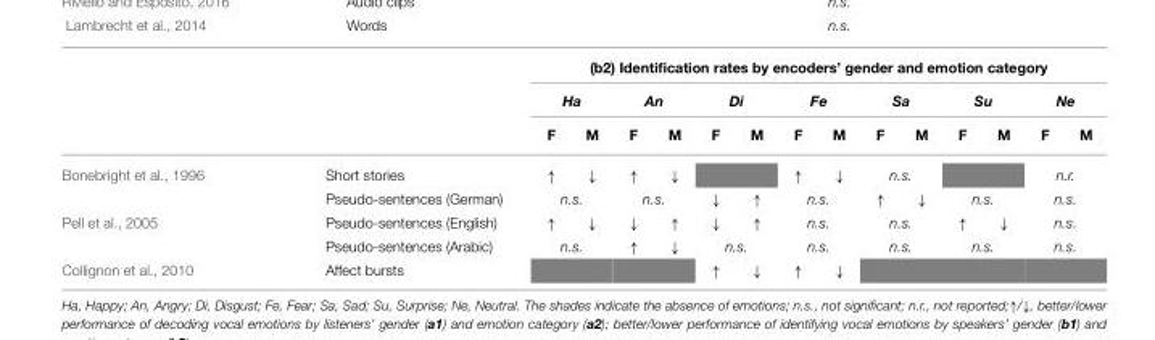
<table><thead><tr><td rowspan="3"></td><td rowspan="3"></td><td colspan="14">(b2) Identification rates by encoders’ gender and emotion category</td></tr><tr><td colspan="2">Ha</td><td colspan="2">An</td><td colspan="2">Di</td><td colspan="2">Fe</td><td colspan="2">Sa</td><td colspan="2">Su</td><td colspan="2">Ne</td></tr><tr><td>F</td><td>M</td><td>F</td><td>M</td><td>F</td><td>M</td><td>F</td><td>M</td><td>F</td><td>M</td><td>F</td><td>M</td><td>F</td><td>M</td></tr></thead><tbody><tr><td rowspan="2">Bonebright et al., 1996</td><td>Short stories</td><td>↑</td><td>↓</td><td>↑</td><td>↓</td><td colspan="2"></td><td>↑</td><td>↓</td><td colspan="2">n.s.</td><td colspan="2"></td><td colspan="2">n.r.</td></tr><tr><td>Pseudo-sentences (German)</td><td colspan="2">n.s.</td><td colspan="2">n.s.</td><td>↓</td><td>↑</td><td colspan="2">n.s.</td><td>↑</td><td>↓</td><td colspan="2">n.s.</td><td colspan="2">n.s.</td></tr><tr><td rowspan="2">Pell et al., 2005</td><td>Pseudo-sentences (English)</td><td>↑</td><td>↓</td><td>↓</td><td>↑</td><td>↓</td><td>↑</td><td colspan="2">n.s.</td><td colspan="2">n.s.</td><td>↑</td><td>↓</td><td colspan="2">n.s.</td></tr><tr><td>Pseudo-sentences (Arabic)</td><td colspan="2">n.s.</td><td>↑</td><td>↓</td><td colspan="2">n.s.</td><td colspan="2">n.s.</td><td colspan="2">n.s.</td><td colspan="2">n.s.</td><td colspan="2">n.s.</td></tr><tr><td>Collignon et al., 2010</td><td>Affect bursts</td><td colspan="2"></td><td colspan="2"></td><td>↑</td><td>↓</td><td>↑</td><td>↓</td><td colspan="2"></td><td colspan="2"></td><td colspan="2"></td></tr></tbody></table>